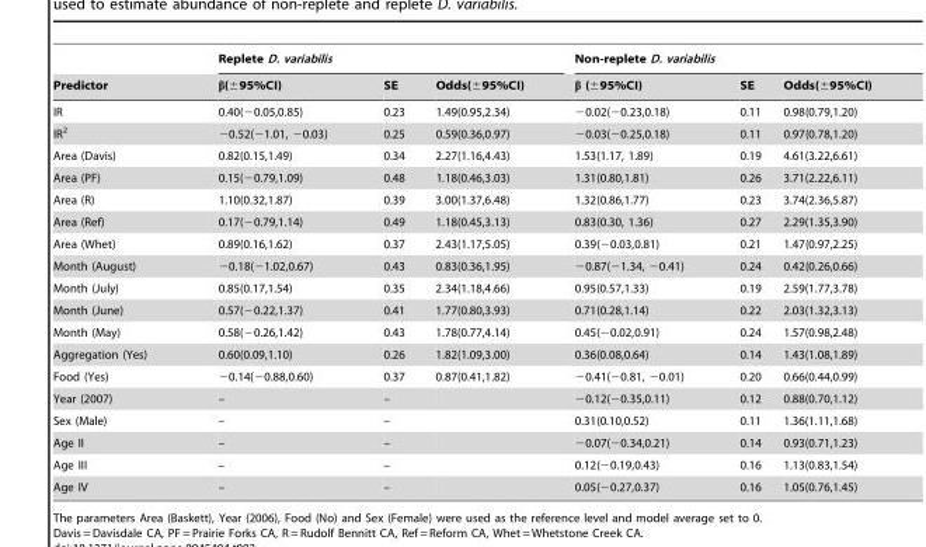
<table><thead><tr><td rowspan="2">Predictor</td><td colspan="3">Replete D. variabilis</td><td colspan="3">Non-replete D. variabilis</td></tr><tr><td>β(±95%CI)</td><td>SE</td><td>Odds(±95%CI)</td><td>β (±95%CI)</td><td>SE</td><td>Odds(±95%CI)</td></tr></thead><tbody><tr><td>IR</td><td>0.40(−0.05,0.85)</td><td>0.23</td><td>1.49(0.95,2.34)</td><td>−0.02(−0.23,0.18)</td><td>0.11</td><td>0.98(0.79,1.20)</td></tr><tr><td>IR<sup>2</sup></td><td>−0.52(−1.01, −0.03)</td><td>0.25</td><td>0.59(0.36,0.97)</td><td>−0.03(−0.25,0.18)</td><td>0.11</td><td>0.97(0.78,1.20)</td></tr><tr><td>Area (Davis)</td><td>0.82(0.15,1.49)</td><td>0.34</td><td>2.27(1.16,4.43)</td><td>1.53(1.17, 1.89)</td><td>0.19</td><td>4.61(3.22,6.61)</td></tr><tr><td>Area (PF)</td><td>0.15(−0.79,1.09)</td><td>0.48</td><td>1.18(0.46,3.03)</td><td>1.31(0.80,1.81)</td><td>0.26</td><td>3.71(2.22,6.11)</td></tr><tr><td>Area (R)</td><td>1.10(0.32,1.87)</td><td>0.39</td><td>3.00(1.37,6.48)</td><td>1.32(0.86,1.77)</td><td>0.23</td><td>3.74(2.36,5.87)</td></tr><tr><td>Area (Ref)</td><td>0.17(−0.79,1.14)</td><td>0.49</td><td>1.18(0.45,3.13)</td><td>0.83(0.30, 1.36)</td><td>0.27</td><td>2.29(1.35,3.90)</td></tr><tr><td>Area (Whet)</td><td>0.89(0.16,1.62)</td><td>0.37</td><td>2.43(1.17,5.05)</td><td>0.39(−0.03,0.81)</td><td>0.21</td><td>1.47(0.97,2.25)</td></tr><tr><td>Month (August)</td><td>−0.18(−1.02,0.67)</td><td>0.43</td><td>0.83(0.36,1.95)</td><td>−0.87(−1.34, −0.41)</td><td>0.24</td><td>0.42(0.26,0.66)</td></tr><tr><td>Month (July)</td><td>0.85(0.17,1.54)</td><td>0.35</td><td>2.34(1.18,4.66)</td><td>0.95(0.57,1.33)</td><td>0.19</td><td>2.59(1.77,3.78)</td></tr><tr><td>Month (June)</td><td>0.57(−0.22,1.37)</td><td>0.41</td><td>1.77(0.80,3.93)</td><td>0.71(0.28,1.14)</td><td>0.22</td><td>2.03(1.32,3.13)</td></tr><tr><td>Month (May)</td><td>0.58(−0.26,1.42)</td><td>0.43</td><td>1.78(0.77,4.14)</td><td>0.45(−0.02,0.91)</td><td>0.24</td><td>1.57(0.98,2.48)</td></tr><tr><td>Aggregation (Yes)</td><td>0.60(0.09,1.10)</td><td>0.26</td><td>1.82(1.09,3.00)</td><td>0.36(0.08,0.64)</td><td>0.14</td><td>1.43(1.08,1.89)</td></tr><tr><td>Food (Yes)</td><td>−0.14(−0.88,0.60)</td><td>0.37</td><td>0.87(0.41,1.82)</td><td>−0.41(−0.81, −0.01)</td><td>0.20</td><td>0.66(0.44,0.99)</td></tr><tr><td>Year (2007)</td><td>–</td><td>–</td><td></td><td>−0.12(−0.35,0.11)</td><td>0.12</td><td>0.88(0.70,1.12)</td></tr><tr><td>Sex (Male)</td><td>–</td><td>–</td><td></td><td>0.31(0.10,0.52)</td><td>0.11</td><td>1.36(1.11,1.68)</td></tr><tr><td>Age II</td><td>–</td><td>–</td><td></td><td>−0.07(−0.34,0.21)</td><td>0.14</td><td>0.93(0.71,1.23)</td></tr><tr><td>Age III</td><td>–</td><td>–</td><td></td><td>0.12(−0.19,0.43)</td><td>0.16</td><td>1.13(0.83,1.54)</td></tr><tr><td>Age IV</td><td>–</td><td>–</td><td></td><td>0.05(−0.27,0.37)</td><td>0.16</td><td>1.05(0.76,1.45)</td></tr></tbody></table>